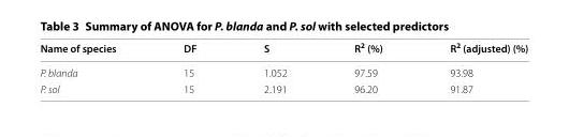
<table><thead><tr><td>Name of species</td><td>DF</td><td>S</td><td>R<sup>2</sup> (%)</td><td>R<sup>2</sup> (adjusted) (%)</td></tr></thead><tbody><tr><td>P. blanda</td><td>15</td><td>1.052</td><td>97.59</td><td>93.98</td></tr><tr><td>P. sol</td><td>15</td><td>2.191</td><td>96.20</td><td>91.87</td></tr></tbody></table>